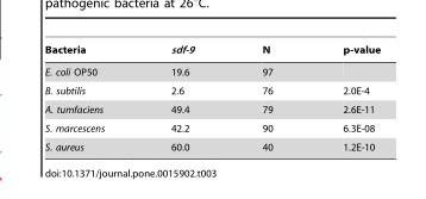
<table><thead><tr><td>Bacteria</td><td>sdf-9</td><td>N</td><td>p-value</td></tr></thead><tbody><tr><td>E. coli OP50</td><td>19.6</td><td>97</td><td></td></tr><tr><td>B. subtilis</td><td>2.6</td><td>76</td><td>2.0E-4</td></tr><tr><td>A. tumfaciens</td><td>49.4</td><td>79</td><td>2.6E-11</td></tr><tr><td>S. marcescens</td><td>42.2</td><td>90</td><td>6.3E-08</td></tr><tr><td>S. aureus</td><td>60.0</td><td>40</td><td>1.2E-10</td></tr></tbody></table>